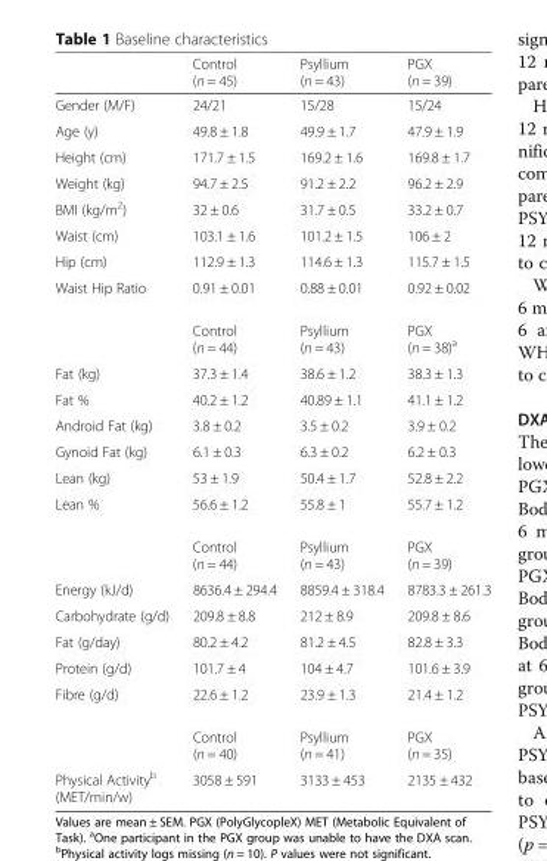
<table><thead><tr><td></td><td>Control (n = 45)</td><td>Psyllium (n = 43)</td><td>PGX (n = 39)</td></tr></thead><tbody><tr><td>Gender (M/F)</td><td>24/21</td><td>15/28</td><td>15/24</td></tr><tr><td>Age (y)</td><td>49.8 ± 1.8</td><td>49.9 ± 1.7</td><td>47.9 ± 1.9</td></tr><tr><td>Height (cm)</td><td>171.7 ± 1.5</td><td>169.2 ± 1.6</td><td>169.8 ± 1.7</td></tr><tr><td>Weight (kg)</td><td>94.7 ± 2.5</td><td>91.2 ± 2.2</td><td>96.2 ± 2.9</td></tr><tr><td>BMI (kg/m<sup>2</sup>)</td><td>32 ± 0.6</td><td>31.7 ± 0.5</td><td>33.2 ± 0.7</td></tr><tr><td>Waist (cm)</td><td>103.1 ± 1.6</td><td>101.2 ± 1.5</td><td>106 ± 2</td></tr><tr><td>Hip (cm)</td><td>112.9 ± 1.3</td><td>114.6 ± 1.3</td><td>115.7 ± 1.5</td></tr><tr><td rowspan="2">Waist Hip Ratio</td><td>0.91 ± 0.01</td><td>0.88 ± 0.01</td><td>0.92 ± 0.02</td></tr><tr><td>Control (n = 44)</td><td>Psyllium (n = 43)</td><td>PGX (n = 38)<sup>a</sup></td></tr><tr><td>Fat (kg)</td><td>37.3 ± 1.4</td><td>38.6 ± 1.2</td><td>38.3 ± 1.3</td></tr><tr><td>Fat %</td><td>40.2 ± 1.2</td><td>40.89 ± 1.1</td><td>41.1 ± 1.2</td></tr><tr><td>Android Fat (kg)</td><td>3.8 ± 0.2</td><td>3.5 ± 0.2</td><td>3.9 ± 0.2</td></tr><tr><td>Gynoid Fat (kg)</td><td>6.1 ± 0.3</td><td>6.3 ± 0.2</td><td>6.2 ± 0.3</td></tr><tr><td>Lean (kg)</td><td>53 ± 1.9</td><td>50.4 ± 1.7</td><td>52.8 ± 2.2</td></tr><tr><td rowspan="2">Lean %</td><td>56.6 ± 1.2</td><td>55.8 ± 1</td><td>55.7 ± 1.2</td></tr><tr><td>Control (n = 44)</td><td>Psyllium (n = 43)</td><td>PGX (n = 39)</td></tr><tr><td>Energy (kJ/d)</td><td>8636.4 ± 294.4</td><td>8859.4 ± 318.4</td><td>8783.3 ± 261.3</td></tr><tr><td>Carbohydrate (g/d)</td><td>209.8 ± 8.8</td><td>212 ± 8.9</td><td>209.8 ± 8.6</td></tr><tr><td>Fat (g/day)</td><td>80.2 ± 4.2</td><td>81.2 ± 4.5</td><td>82.8 ± 3.3</td></tr><tr><td>Protein (g/d)</td><td>101.7 ± 4</td><td>104 ± 4.7</td><td>101.6 ± 3.9</td></tr><tr><td rowspan="2">Fibre (g/d)</td><td>22.6 ± 1.2</td><td>23.9 ± 1.3</td><td>21.4 ± 1.2</td></tr><tr><td>Control (n = 40)</td><td>Psyllium (n = 41)</td><td>PGX (n = 35)</td></tr><tr><td>Physical Activity<sup>b</sup> (MET/min/w)</td><td>3058 ± 591</td><td>3133 ± 453</td><td>2135 ± 432</td></tr></tbody></table>